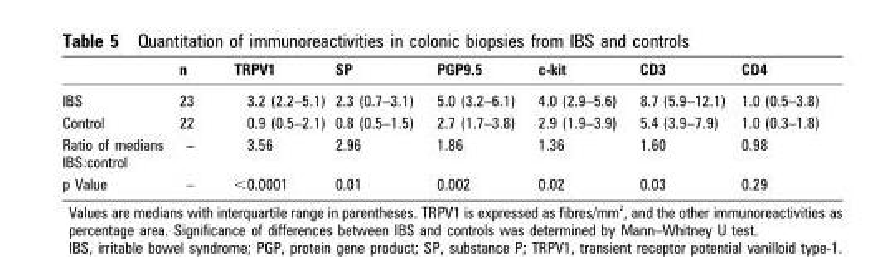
<table><thead><tr><td></td><td>n</td><td>TRPV1</td><td>SP</td><td>PGP9.5</td><td>c-kit</td><td>CD3</td><td>CD4</td></tr></thead><tbody><tr><td>IBS</td><td>23</td><td>3.2 (2.2–5.1)</td><td>2.3 (0.7–3.1)</td><td>5.0 (3.2–6.1)</td><td>4.0 (2.9–5.6)</td><td>8.7 (5.9–12.1)</td><td>1.0 (0.5–3.8)</td></tr><tr><td>Control</td><td>22</td><td>0.9 (0.5–2.1)</td><td>0.8 (0.5–1.5)</td><td>2.7 (1.7–3.8)</td><td>2.9 (1.9–3.9)</td><td>5.4 (3.9–7.9)</td><td>1.0 (0.3–1.8)</td></tr><tr><td>Ratio of medians IBS:control</td><td>–</td><td>3.56</td><td>2.96</td><td>1.86</td><td>1.36</td><td>1.60</td><td>0.98</td></tr><tr><td>p Value</td><td>–</td><td>&lt;0.0001</td><td>0.01</td><td>0.002</td><td>0.02</td><td>0.03</td><td>0.29</td></tr></tbody></table>